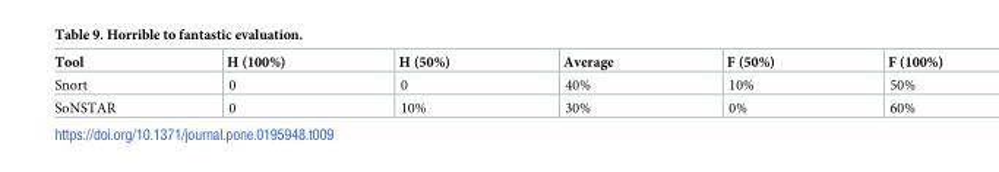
<table><thead><tr><td>Tool</td><td>H (100%)</td><td>H (50%)</td><td>Average</td><td>F (50%)</td><td>F (100%)</td></tr></thead><tbody><tr><td>Snort</td><td>0</td><td>0</td><td>40%</td><td>10%</td><td>50%</td></tr><tr><td>SoNSTAR</td><td>0</td><td>10%</td><td>30%</td><td>0%</td><td>60%</td></tr></tbody></table>